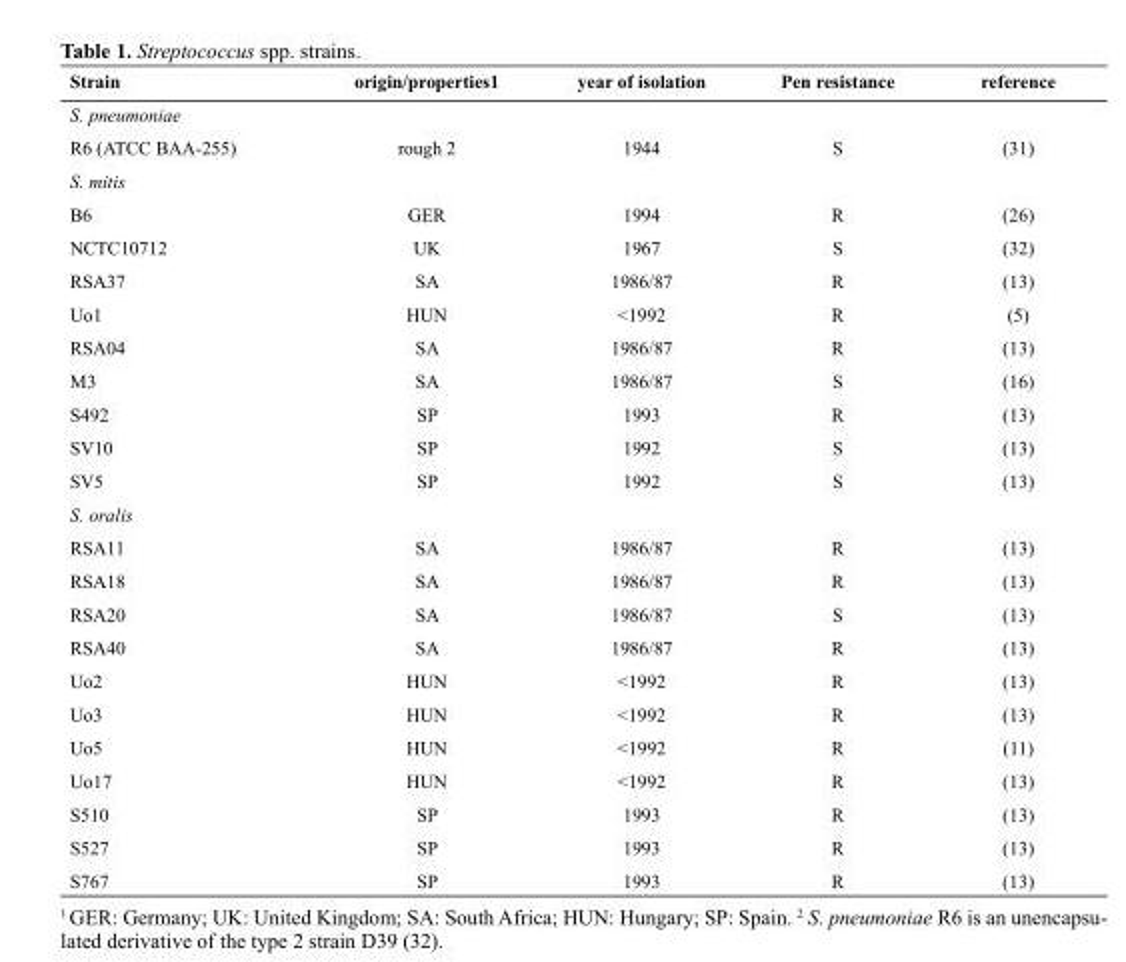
<table><thead><tr><td>Strain</td><td>origin/properties1</td><td>year of isolation</td><td>Pen resistance</td><td>reference</td></tr></thead><tbody><tr><td colspan="5">S. pneumoniae</td></tr><tr><td>R6 (ATCC BAA-255)</td><td>rough 2</td><td>1944</td><td>S</td><td>(31)</td></tr><tr><td colspan="5">S. mitis</td></tr><tr><td>B6</td><td>GER</td><td>1994</td><td>R</td><td>(26)</td></tr><tr><td>NCTC10712</td><td>UK</td><td>1967</td><td>S</td><td>(32)</td></tr><tr><td>RSA37</td><td>SA</td><td>1986/87</td><td>R</td><td>(13)</td></tr><tr><td>Uo1</td><td>HUN</td><td>&lt;1992</td><td>R</td><td>(5)</td></tr><tr><td>RSA04</td><td>SA</td><td>1986/87</td><td>R</td><td>(13)</td></tr><tr><td>M3</td><td>SA</td><td>1986/87</td><td>S</td><td>(16)</td></tr><tr><td>S492</td><td>SP</td><td>1993</td><td>R</td><td>(13)</td></tr><tr><td>SV10</td><td>SP</td><td>1992</td><td>S</td><td>(13)</td></tr><tr><td>SV5</td><td>SP</td><td>1992</td><td>S</td><td>(13)</td></tr><tr><td colspan="5">S. oralis</td></tr><tr><td>RSA11</td><td>SA</td><td>1986/87</td><td>R</td><td>(13)</td></tr><tr><td>RSA18</td><td>SA</td><td>1986/87</td><td>R</td><td>(13)</td></tr><tr><td>RSA20</td><td>SA</td><td>1986/87</td><td>S</td><td>(13)</td></tr><tr><td>RSA40</td><td>SA</td><td>1986/87</td><td>R</td><td>(13)</td></tr><tr><td>Uo2</td><td>HUN</td><td>&lt;1992</td><td>R</td><td>(13)</td></tr><tr><td>Uo3</td><td>HUN</td><td>&lt;1992</td><td>R</td><td>(13)</td></tr><tr><td>Uo5</td><td>HUN</td><td>&lt;1992</td><td>R</td><td>(11)</td></tr><tr><td>Uo17</td><td>HUN</td><td>&lt;1992</td><td>R</td><td>(13)</td></tr><tr><td>S510</td><td>SP</td><td>1993</td><td>R</td><td>(13)</td></tr><tr><td>S527</td><td>SP</td><td>1993</td><td>R</td><td>(13)</td></tr><tr><td>S767</td><td>SP</td><td>1993</td><td>R</td><td>(13)</td></tr></tbody></table>